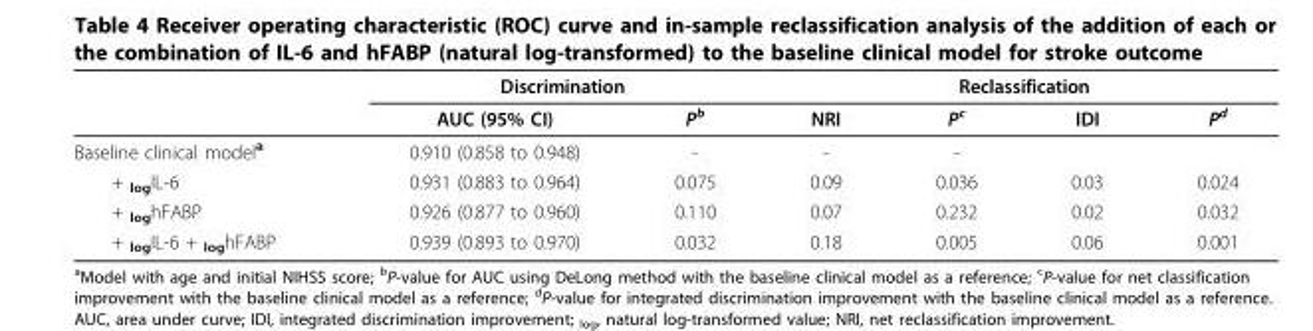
<table><thead><tr><td rowspan="2"></td><td colspan="2">Discrimination</td><td colspan="4">Reclassification</td></tr><tr><td>AUC (95% CI)</td><td>P<sup>b</sup></td><td>NRI</td><td>P<sup>c</sup></td><td>IDI</td><td>P<sup>d</sup></td></tr></thead><tbody><tr><td>Baseline clinical model<sup>a</sup></td><td>0.910 (0.858 to 0.948)</td><td>-</td><td>-</td><td>-</td><td></td><td></td></tr><tr><td>+ <sub>log</sub>IL-6</td><td>0.931 (0.883 to 0.964)</td><td>0.075</td><td>0.09</td><td>0.036</td><td>0.03</td><td>0.024</td></tr><tr><td>+ <sub>log</sub>hFABP</td><td>0.926 (0.877 to 0.960)</td><td>0.110</td><td>0.07</td><td>0.232</td><td>0.02</td><td>0.032</td></tr><tr><td>+ <sub>log</sub>IL-6 + <sub>log</sub>hFABP</td><td>0.939 (0.893 to 0.970)</td><td>0.032</td><td>0.18</td><td>0.005</td><td>0.06</td><td>0.001</td></tr></tbody></table>